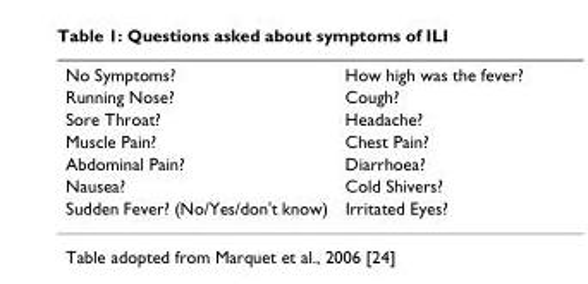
<table><tbody><tr><td>No Symptoms?</td><td>How high was the fever?</td></tr><tr><td>Running Nose?</td><td>Cough?</td></tr><tr><td>Sore Throat?</td><td>Headache?</td></tr><tr><td>Muscle Pain?</td><td>Chest Pain?</td></tr><tr><td>Abdominal Pain?</td><td>Diarrhoea?</td></tr><tr><td>Nausea?</td><td>Cold Shivers?</td></tr><tr><td>Sudden Fever? (No/Yes/don&#x27;t know)</td><td>Irritated Eyes?</td></tr></tbody></table>